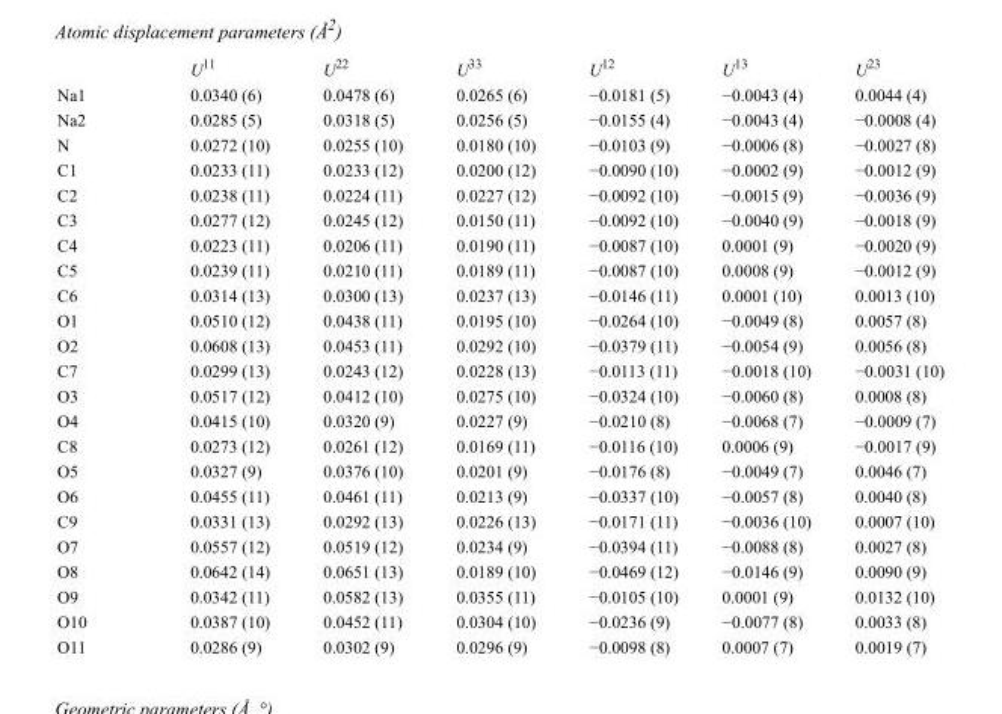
<table><thead><tr><td></td><td>U<sup>11</sup></td><td>U<sup>22</sup></td><td>U<sup>33</sup></td><td>U<sup>12</sup></td><td>U<sup>13</sup></td><td>U<sup>23</sup></td></tr></thead><tbody><tr><td>Na1</td><td>0.0340 (6)</td><td>0.0478 (6)</td><td>0.0265 (6)</td><td>−0.0181 (5)</td><td>−0.0043 (4)</td><td>0.0044 (4)</td></tr><tr><td>Na2</td><td>0.0285 (5)</td><td>0.0318 (5)</td><td>0.0256 (5)</td><td>−0.0155 (4)</td><td>−0.0043 (4)</td><td>−0.0008 (4)</td></tr><tr><td>N</td><td>0.0272 (10)</td><td>0.0255 (10)</td><td>0.0180 (10)</td><td>−0.0103 (9)</td><td>−0.0006 (8)</td><td>−0.0027 (8)</td></tr><tr><td>C1</td><td>0.0233 (11)</td><td>0.0233 (12)</td><td>0.0200 (12)</td><td>−0.0090 (10)</td><td>−0.0002 (9)</td><td>−0.0012 (9)</td></tr><tr><td>C2</td><td>0.0238 (11)</td><td>0.0224 (11)</td><td>0.0227 (12)</td><td>−0.0092 (10)</td><td>−0.0015 (9)</td><td>−0.0036 (9)</td></tr><tr><td>C3</td><td>0.0277 (12)</td><td>0.0245 (12)</td><td>0.0150 (11)</td><td>−0.0092 (10)</td><td>−0.0040 (9)</td><td>−0.0018 (9)</td></tr><tr><td>C4</td><td>0.0223 (11)</td><td>0.0206 (11)</td><td>0.0190 (11)</td><td>−0.0087 (10)</td><td>0.0001 (9)</td><td>−0.0020 (9)</td></tr><tr><td>C5</td><td>0.0239 (11)</td><td>0.0210 (11)</td><td>0.0189 (11)</td><td>−0.0087 (10)</td><td>0.0008 (9)</td><td>−0.0012 (9)</td></tr><tr><td>C6</td><td>0.0314 (13)</td><td>0.0300 (13)</td><td>0.0237 (13)</td><td>−0.0146 (11)</td><td>0.0001 (10)</td><td>0.0013 (10)</td></tr><tr><td>O1</td><td>0.0510 (12)</td><td>0.0438 (11)</td><td>0.0195 (10)</td><td>−0.0264 (10)</td><td>−0.0049 (8)</td><td>0.0057 (8)</td></tr><tr><td>O2</td><td>0.0608 (13)</td><td>0.0453 (11)</td><td>0.0292 (10)</td><td>−0.0379 (11)</td><td>−0.0054 (9)</td><td>0.0056 (8)</td></tr><tr><td>C7</td><td>0.0299 (13)</td><td>0.0243 (12)</td><td>0.0228 (13)</td><td>−0.0113 (11)</td><td>−0.0018 (10)</td><td>−0.0031 (10)</td></tr><tr><td>O3</td><td>0.0517 (12)</td><td>0.0412 (10)</td><td>0.0275 (10)</td><td>−0.0324 (10)</td><td>−0.0060 (8)</td><td>0.0008 (8)</td></tr><tr><td>O4</td><td>0.0415 (10)</td><td>0.0320 (9)</td><td>0.0227 (9)</td><td>−0.0210 (8)</td><td>−0.0068 (7)</td><td>−0.0009 (7)</td></tr><tr><td>C8</td><td>0.0273 (12)</td><td>0.0261 (12)</td><td>0.0169 (11)</td><td>−0.0116 (10)</td><td>0.0006 (9)</td><td>−0.0017 (9)</td></tr><tr><td>O5</td><td>0.0327 (9)</td><td>0.0376 (10)</td><td>0.0201 (9)</td><td>−0.0176 (8)</td><td>−0.0049 (7)</td><td>0.0046 (7)</td></tr><tr><td>O6</td><td>0.0455 (11)</td><td>0.0461 (11)</td><td>0.0213 (9)</td><td>−0.0337 (10)</td><td>−0.0057 (8)</td><td>0.0040 (8)</td></tr><tr><td>C9</td><td>0.0331 (13)</td><td>0.0292 (13)</td><td>0.0226 (13)</td><td>−0.0171 (11)</td><td>−0.0036 (10)</td><td>0.0007 (10)</td></tr><tr><td>O7</td><td>0.0557 (12)</td><td>0.0519 (12)</td><td>0.0234 (9)</td><td>−0.0394 (11)</td><td>−0.0088 (8)</td><td>0.0027 (8)</td></tr><tr><td>O8</td><td>0.0642 (14)</td><td>0.0651 (13)</td><td>0.0189 (10)</td><td>−0.0469 (12)</td><td>−0.0146 (9)</td><td>0.0090 (9)</td></tr><tr><td>O9</td><td>0.0342 (11)</td><td>0.0582 (13)</td><td>0.0355 (11)</td><td>−0.0105 (10)</td><td>0.0001 (9)</td><td>0.0132 (10)</td></tr><tr><td>O10</td><td>0.0387 (10)</td><td>0.0452 (11)</td><td>0.0304 (10)</td><td>−0.0236 (9)</td><td>−0.0077 (8)</td><td>0.0033 (8)</td></tr><tr><td>O11</td><td>0.0286 (9)</td><td>0.0302 (9)</td><td>0.0296 (9)</td><td>−0.0098 (8)</td><td>0.0007 (7)</td><td>0.0019 (7)</td></tr></tbody></table>